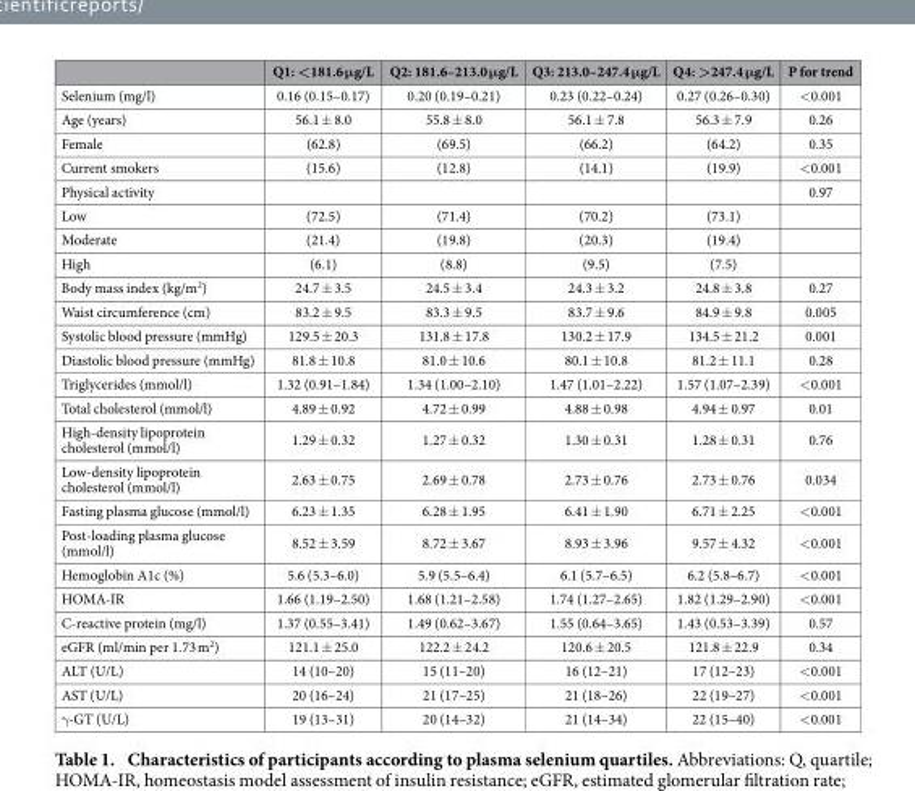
<table><thead><tr><td></td><td>Q1: &lt;181.6 μg/L</td><td>Q2: 181.6–213.0 μg/L</td><td>Q3: 213.0–247.4 μg/L</td><td>Q4: &gt;247.4 μg/L</td><td>P for trend</td></tr></thead><tbody><tr><td>Selenium (mg/l)</td><td>0.16 (0.15–0.17)</td><td>0.20 (0.19–0.21)</td><td>0.23 (0.22–0.24)</td><td>0.27 (0.26–0.30)</td><td>&lt; 0.001</td></tr><tr><td>Age (years)</td><td>56.1 ± 8.0</td><td>55.8 ± 8.0</td><td>56.1 ± 7.8</td><td>56.3 ± 7.9</td><td>0.26</td></tr><tr><td>Female</td><td>(62.8)</td><td>(69.5)</td><td>(66.2)</td><td>(64.2)</td><td>0.35</td></tr><tr><td>Current smokers</td><td>(15.6)</td><td>(12.8)</td><td>(14.1)</td><td>(19.9)</td><td>&lt; 0.001</td></tr><tr><td>Physical activity</td><td></td><td></td><td></td><td></td><td>0.97</td></tr><tr><td>Low</td><td>(72.5)</td><td>(71.4)</td><td>(70.2)</td><td>(73.1)</td><td></td></tr><tr><td>Moderate</td><td>(21.4)</td><td>(19.8)</td><td>(20.3)</td><td>(19.4)</td><td></td></tr><tr><td>High</td><td>(6.1)</td><td>(8.8)</td><td>(9.5)</td><td>(7.5)</td><td></td></tr><tr><td>Body mass index (kg/m<sup>2</sup>)</td><td>24.7 ± 3.5</td><td>24.5 ± 3.4</td><td>24.3 ± 3.2</td><td>24.8 ± 3.8</td><td>0.27</td></tr><tr><td>Waist circumference (cm)</td><td>83.2 ± 9.5</td><td>83.3 ± 9.5</td><td>83.7 ± 9.6</td><td>84.9 ± 9.8</td><td>0.005</td></tr><tr><td>Systolic blood pressure (mmHg)</td><td>129.5 ± 20.3</td><td>131.8 ± 17.8</td><td>130.2 ± 17.9</td><td>134.5 ± 21.2</td><td>0.001</td></tr><tr><td>Diastolic blood pressure (mmHg)</td><td>81.8 ± 10.8</td><td>81.0 ± 10.6</td><td>80.1 ± 10.8</td><td>81.2 ± 11.1</td><td>0.28</td></tr><tr><td>Triglycerides (mmol/l)</td><td>1.32 (0.91–1.84)</td><td>1.34 (1.00–2.10)</td><td>1.47 (1.01–2.22)</td><td>1.57 (1.07–2.39)</td><td>&lt; 0.001</td></tr><tr><td>Total cholesterol (mmol/l)</td><td>4.89 ± 0.92</td><td>4.72 ± 0.99</td><td>4.88 ± 0.98</td><td>4.94 ± 0.97</td><td>0.01</td></tr><tr><td>High-density lipoprotein cholesterol (mmol/l)</td><td>1.29 ± 0.32</td><td>1.27 ± 0.32</td><td>1.30 ± 0.31</td><td>1.28 ± 0.31</td><td>0.76</td></tr><tr><td>Low-density lipoprotein cholesterol (mmol/l)</td><td>2.63 ± 0.75</td><td>2.69 ± 0.78</td><td>2.73 ± 0.76</td><td>2.73 ± 0.76</td><td>0.034</td></tr><tr><td>Fasting plasma glucose (mmol/l)</td><td>6.23 ± 1.35</td><td>6.28 ± 1.95</td><td>6.41 ± 1.90</td><td>6.71 ± 2.25</td><td>&lt; 0.001</td></tr><tr><td>Post-loading plasma glucose (mmol/l)</td><td>8.52 ± 3.59</td><td>8.72 ± 3.67</td><td>8.93 ± 3.96</td><td>9.57 ± 4.32</td><td>&lt; 0.001</td></tr><tr><td>Hemoglobin A1c (%)</td><td>5.6 (5.3–6.0)</td><td>5.9 (5.5–6.4)</td><td>6.1 (5.7–6.5)</td><td>6.2 (5.8–6.7)</td><td>&lt; 0.001</td></tr><tr><td>HOMA-IR</td><td>1.66 (1.19–2.50)</td><td>1.68 (1.21–2.58)</td><td>1.74 (1.27–2.65)</td><td>1.82 (1.29–2.90)</td><td>&lt; 0.001</td></tr><tr><td>C-reactive protein (mg/l)</td><td>1.37 (0.55–3.41)</td><td>1.49 (0.62–3.67)</td><td>1.55 (0.64–3.65)</td><td>1.43 (0.53–3.39)</td><td>0.57</td></tr><tr><td>eGFR (ml/min per 1.73 m<sup>2</sup>)</td><td>121.1 ± 25.0</td><td>122.2 ± 24.2</td><td>120.6 ± 20.5</td><td>121.8 ± 22.9</td><td>0.34</td></tr><tr><td>ALT (U/L)</td><td>14 (10–20)</td><td>15 (11–20)</td><td>16 (12–21)</td><td>17 (12–23)</td><td>&lt; 0.001</td></tr><tr><td>AST (U/L)</td><td>20 (16–24)</td><td>21 (17–25)</td><td>21 (18–26)</td><td>22 (19–27)</td><td>&lt; 0.001</td></tr><tr><td>γ -GT (U/L)</td><td>19 (13–31)</td><td>20 (14–32)</td><td>21 (14–34)</td><td>22 (15–40)</td><td>&lt; 0.001</td></tr></tbody></table>